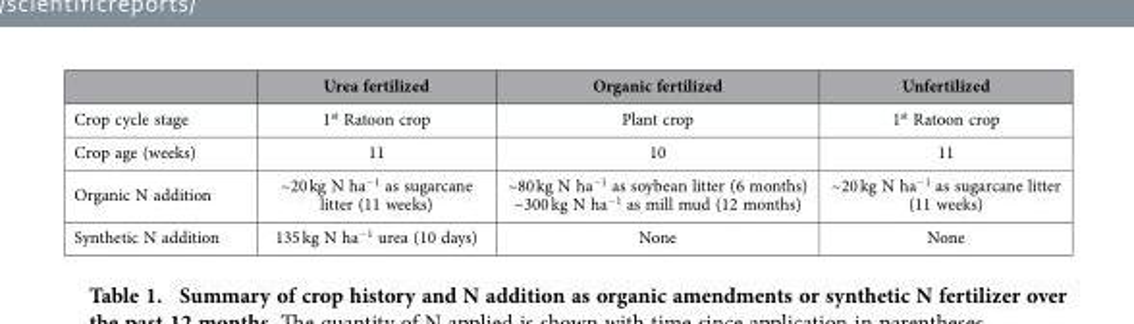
<table><thead><tr><td></td><td>Urea fertilized</td><td>Organic fertilized</td><td>Unfertilized</td></tr></thead><tbody><tr><td>Crop cycle stage</td><td>1<sup>st</sup> Ratoon crop</td><td>Plant crop</td><td>1<sup>st</sup> Ratoon crop</td></tr><tr><td>Crop age (weeks)</td><td>11</td><td>10</td><td>11</td></tr><tr><td>Organic N addition</td><td>~20 kg N ha<sup>−1</sup> as sugarcane litter (11 weeks)</td><td>~80 kg N ha<sup>−1</sup> as soybean litter (6 months) ~300 kg N ha<sup>−1</sup> as mill mud (12 months)</td><td>~20 kg N ha<sup>−1</sup> as sugarcane litter (11 weeks)</td></tr><tr><td>Synthetic N addition</td><td>135 kg N ha<sup>−1</sup> urea (10 days)</td><td>None</td><td>None</td></tr></tbody></table>